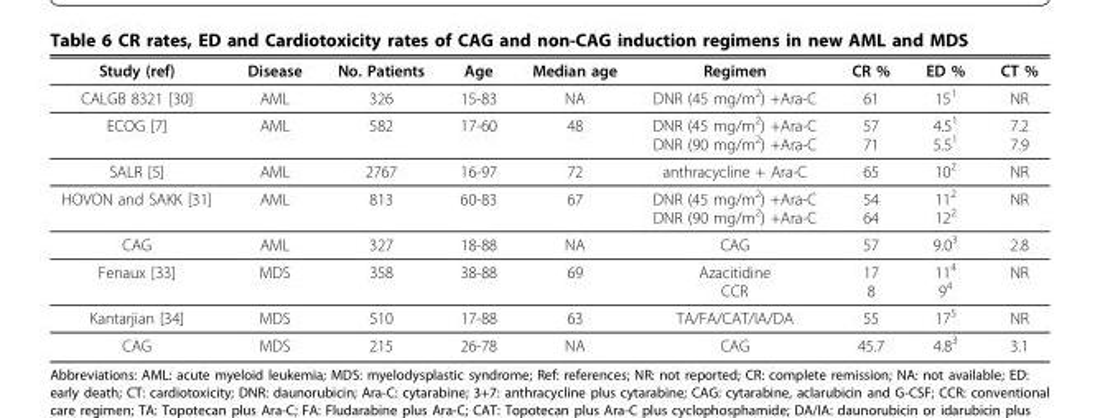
<table><tbody><tr><td>Study (ref)</td><td>Disease</td><td>No. Patients</td><td>Age</td><td>Median age</td><td>Regimen</td><td>CR %</td><td>ED %</td><td>CT %</td></tr><tr><td>CALGB 8321 [30]</td><td>AML</td><td>326</td><td>15-83</td><td>NA</td><td>DNR (45 mg/m<sup>2</sup>) +Ara-C</td><td>61</td><td>15<sup>1</sup></td><td>NR</td></tr><tr><td>ECOG [7]</td><td>AML</td><td>582</td><td>17-60</td><td>48</td><td>DNR (45 mg/m<sup>2</sup>) +Ara-C DNR (90 mg/m<sup>2</sup>) +Ara-C</td><td>57 71</td><td>4.5<sup>1</sup> 5.5<sup>1</sup></td><td>7.2 7.9</td></tr><tr><td>SALR [5]</td><td>AML</td><td>2767</td><td>16-97</td><td>72</td><td>anthracycline + Ara-C</td><td>65</td><td>10<sup>2</sup></td><td>NR</td></tr><tr><td>HOVON and SAKK [31]</td><td>AML</td><td>813</td><td>60-83</td><td>67</td><td>DNR (45 mg/m<sup>2</sup>) +Ara-C DNR (90 mg/m<sup>2</sup>) +Ara-C</td><td>54 64</td><td>11<sup>2</sup> 12<sup>2</sup></td><td>NR</td></tr><tr><td>CAG</td><td>AML</td><td>327</td><td>18-88</td><td>NA</td><td>CAG</td><td>57</td><td>9.0<sup>3</sup></td><td>2.8</td></tr><tr><td>Fenaux [33]</td><td>MDS</td><td>358</td><td>38-88</td><td>69</td><td>Azacitidine CCR</td><td>17 8</td><td>11<sup>4</sup> 9<sup>4</sup></td><td>NR</td></tr><tr><td>Kantarjian [34]</td><td>MDS</td><td>510</td><td>17-88</td><td>63</td><td>TA/FA/CAT/IA/DA</td><td>55</td><td>17<sup>5</sup></td><td>NR</td></tr><tr><td>CAG</td><td>MDS</td><td>215</td><td>26-78</td><td>NA</td><td>CAG</td><td>45.7</td><td>4.8<sup>3</sup></td><td>3.1</td></tr></tbody></table>